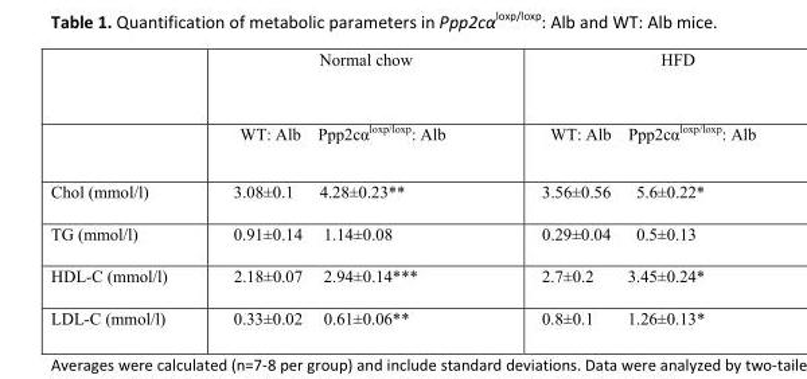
<table><thead><tr><td></td><td>Normal chow</td><td>HFD</td></tr></thead><tbody><tr><td></td><td>WT: Alb Ppp2cα<sup>loxp/loxp</sup>: Alb</td><td>WT: Alb Ppp2cα<sup>loxp/loxp</sup>: Alb</td></tr><tr><td>Chol (mmol/l)</td><td>3.08±0.1 4.28±0.23**</td><td>3.56±0.56 5.6±0.22*</td></tr><tr><td>TG (mmol/l)</td><td>0.91±0.14 1.14±0.08</td><td>0.29±0.04 0.5±0.13</td></tr><tr><td>HDL-C (mmol/l)</td><td>2.18±0.07 2.94±0.14***</td><td>2.7±0.2 3.45±0.24*</td></tr><tr><td>LDL-C (mmol/l)</td><td>0.33±0.02 0.61±0.06**</td><td>0.8±0.1 1.26±0.13*</td></tr></tbody></table>